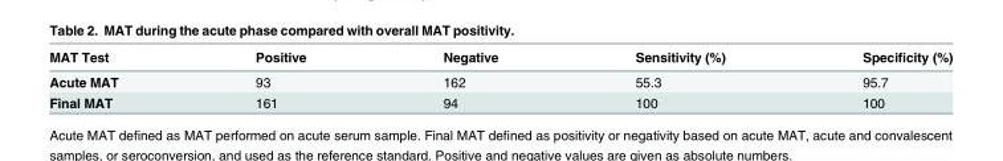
<table><thead><tr><td>MAT Test</td><td>Positive</td><td>Negative</td><td>Sensitivity (%)</td><td>Specificity (%)</td></tr></thead><tbody><tr><td>Acute MAT</td><td>93</td><td>162</td><td>55.3</td><td>95.7</td></tr><tr><td>Final MAT</td><td>161</td><td>94</td><td>100</td><td>100</td></tr></tbody></table>